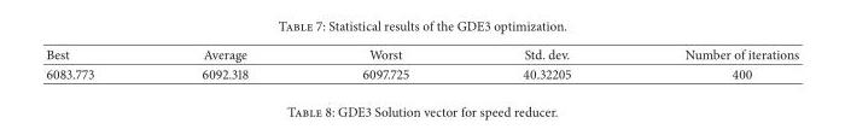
<table><thead><tr><td>Best</td><td>Average</td><td>Worst</td><td>Std. dev.</td><td>Number of iterations</td></tr></thead><tbody><tr><td>6083.773</td><td>6092.318</td><td>6097.725</td><td>40.32205</td><td>400</td></tr></tbody></table>